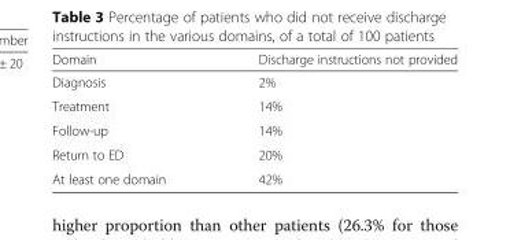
<table><thead><tr><td>Domain</td><td>Discharge instructions not provided</td></tr></thead><tbody><tr><td>Diagnosis</td><td>2%</td></tr><tr><td>Treatment</td><td>14%</td></tr><tr><td>Follow-up</td><td>14%</td></tr><tr><td>Return to ED</td><td>20%</td></tr><tr><td>At least one domain</td><td>42%</td></tr></tbody></table>